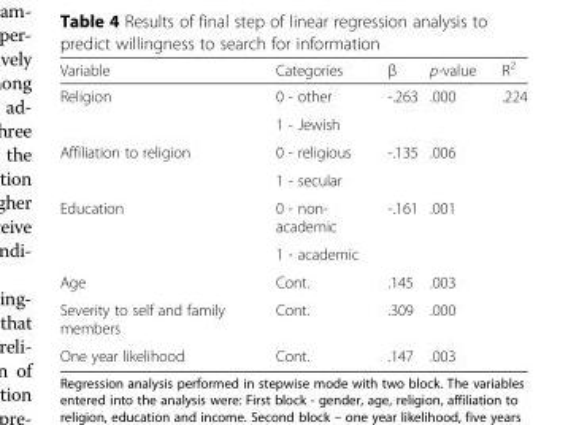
<table><thead><tr><td>Variable</td><td>Categories</td><td>β</td><td>p-value</td><td>R<sup>2</sup></td></tr></thead><tbody><tr><td rowspan="2">Religion</td><td>0 - other</td><td rowspan="2">-.263</td><td rowspan="2">.000</td><td rowspan="9">.224</td></tr><tr><td>1 - Jewish</td></tr><tr><td rowspan="2">Affiliation to religion</td><td>0 - religious</td><td rowspan="2">-.135</td><td rowspan="2">.006</td></tr><tr><td>1 - secular</td></tr><tr><td rowspan="2">Education</td><td>0 - non- academic</td><td rowspan="2">-.161</td><td rowspan="2">.001</td></tr><tr><td>1 - academic</td></tr><tr><td>Age</td><td>Cont.</td><td>.145</td><td>.003</td></tr><tr><td>Severity to self and family members</td><td>Cont.</td><td>.309</td><td>.000</td></tr><tr><td>One year likelihood</td><td>Cont.</td><td>.147</td><td>.003</td></tr></tbody></table>